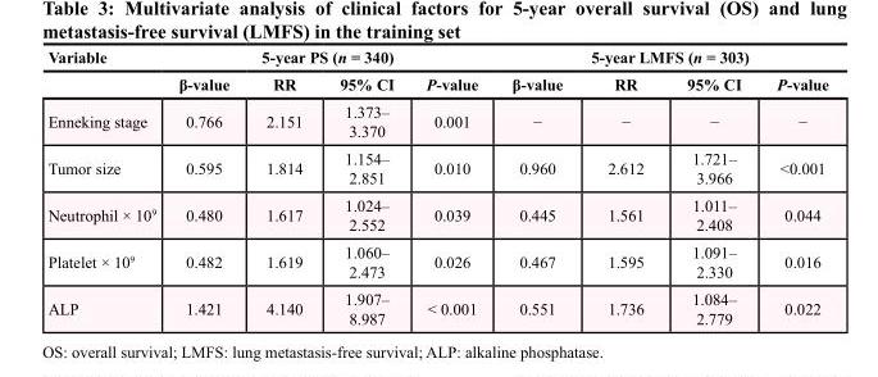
<table><thead><tr><td rowspan="2">Variable</td><td colspan="4">5-year PS (n = 340)</td><td colspan="4">5-year LMFS (n = 303)</td></tr><tr><td>β-value</td><td>RR</td><td>95% CI</td><td>P-value</td><td>β-value</td><td>RR</td><td>95% CI</td><td>P-value</td></tr></thead><tbody><tr><td>Enneking stage</td><td>0.766</td><td>2.151</td><td>1.373– 3.370</td><td>0.001</td><td>−</td><td>−</td><td>−</td><td>−</td></tr><tr><td>Tumor size</td><td>0.595</td><td>1.814</td><td>1.154– 2.851</td><td>0.010</td><td>0.960</td><td>2.612</td><td>1.721– 3.966</td><td>&lt;0.001</td></tr><tr><td>Neutrophil × 10<sup>9</sup></td><td>0.480</td><td>1.617</td><td>1.024– 2.552</td><td>0.039</td><td>0.445</td><td>1.561</td><td>1.011– 2.408</td><td>0.044</td></tr><tr><td>Platelet × 10<sup>9</sup></td><td>0.482</td><td>1.619</td><td>1.060– 2.473</td><td>0.026</td><td>0.467</td><td>1.595</td><td>1.091– 2.330</td><td>0.016</td></tr><tr><td>ALP</td><td>1.421</td><td>4.140</td><td>1.907– 8.987</td><td>&lt; 0.001</td><td>0.551</td><td>1.736</td><td>1.084– 2.779</td><td>0.022</td></tr></tbody></table>